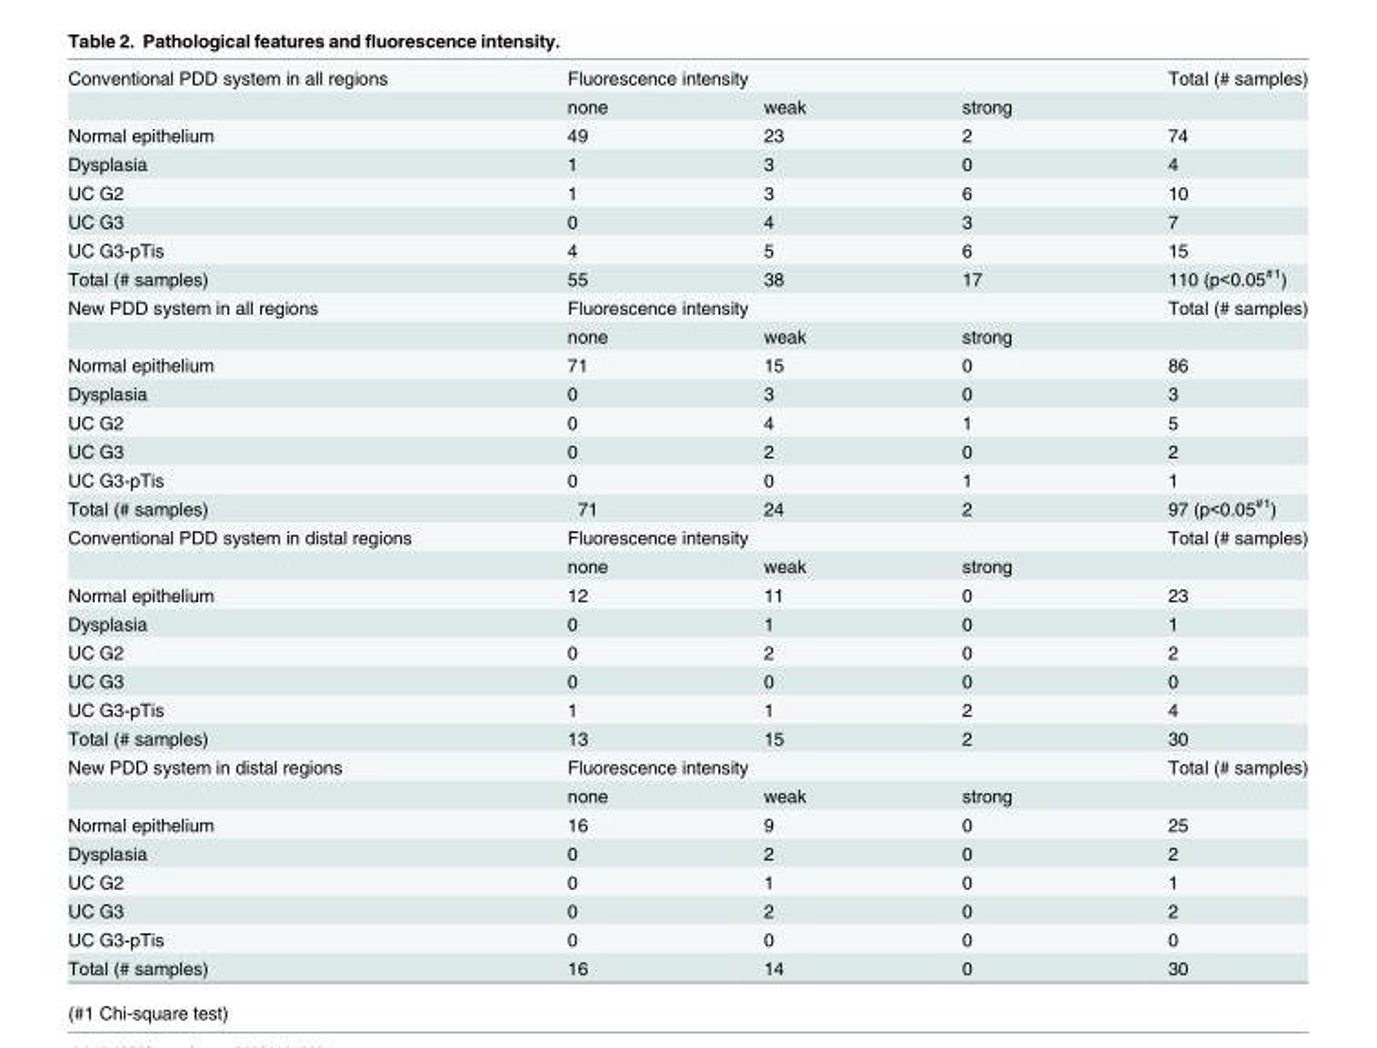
<table><tbody><tr><td rowspan="2">Conventional PDD system in all regions</td><td colspan="3">Fluorescence intensity</td><td>Total (# samples)</td></tr><tr><td>none</td><td>weak</td><td>strong</td><td></td></tr><tr><td>Normal epithelium</td><td>49</td><td>23</td><td>2</td><td>74</td></tr><tr><td>Dysplasia</td><td>1</td><td>3</td><td>0</td><td>4</td></tr><tr><td>UC G2</td><td>1</td><td>3</td><td>6</td><td>10</td></tr><tr><td>UC G3</td><td>0</td><td>4</td><td>3</td><td>7</td></tr><tr><td>UC G3-pTis</td><td>4</td><td>5</td><td>6</td><td>15</td></tr><tr><td>Total (# samples)</td><td>55</td><td>38</td><td>17</td><td>110 (p&lt;0.05<sup>#1</sup>)</td></tr><tr><td rowspan="2">New PDD system in all regions</td><td colspan="3">Fluorescence intensity</td><td>Total (# samples)</td></tr><tr><td>none</td><td>weak</td><td>strong</td><td></td></tr><tr><td>Normal epithelium</td><td>71</td><td>15</td><td>0</td><td>86</td></tr><tr><td>Dysplasia</td><td>0</td><td>3</td><td>0</td><td>3</td></tr><tr><td>UC G2</td><td>0</td><td>4</td><td>1</td><td>5</td></tr><tr><td>UC G3</td><td>0</td><td>2</td><td>0</td><td>2</td></tr><tr><td>UC G3-pTis</td><td>0</td><td>0</td><td>1</td><td>1</td></tr><tr><td>Total (# samples)</td><td>71</td><td>24</td><td>2</td><td>97 (p&lt;0.05<sup>#1</sup>)</td></tr><tr><td rowspan="2">Conventional PDD system in distal regions</td><td colspan="3">Fluorescence intensity</td><td>Total (# samples)</td></tr><tr><td>none</td><td>weak</td><td>strong</td><td></td></tr><tr><td>Normal epithelium</td><td>12</td><td>11</td><td>0</td><td>23</td></tr><tr><td>Dysplasia</td><td>0</td><td>1</td><td>0</td><td>1</td></tr><tr><td>UC G2</td><td>0</td><td>2</td><td>0</td><td>2</td></tr><tr><td>UC G3</td><td>0</td><td>0</td><td>0</td><td>0</td></tr><tr><td>UC G3-pTis</td><td>1</td><td>1</td><td>2</td><td>4</td></tr><tr><td>Total (# samples)</td><td>13</td><td>15</td><td>2</td><td>30</td></tr><tr><td rowspan="2">New PDD system in distal regions</td><td colspan="3">Fluorescence intensity</td><td>Total (# samples)</td></tr><tr><td>none</td><td>weak</td><td>strong</td><td></td></tr><tr><td>Normal epithelium</td><td>16</td><td>9</td><td>0</td><td>25</td></tr><tr><td>Dysplasia</td><td>0</td><td>2</td><td>0</td><td>2</td></tr><tr><td>UC G2</td><td>0</td><td>1</td><td>0</td><td>1</td></tr><tr><td>UC G3</td><td>0</td><td>2</td><td>0</td><td>2</td></tr><tr><td>UC G3-pTis</td><td>0</td><td>0</td><td>0</td><td>0</td></tr><tr><td>Total (# samples)</td><td>16</td><td>14</td><td>0</td><td>30</td></tr></tbody></table>